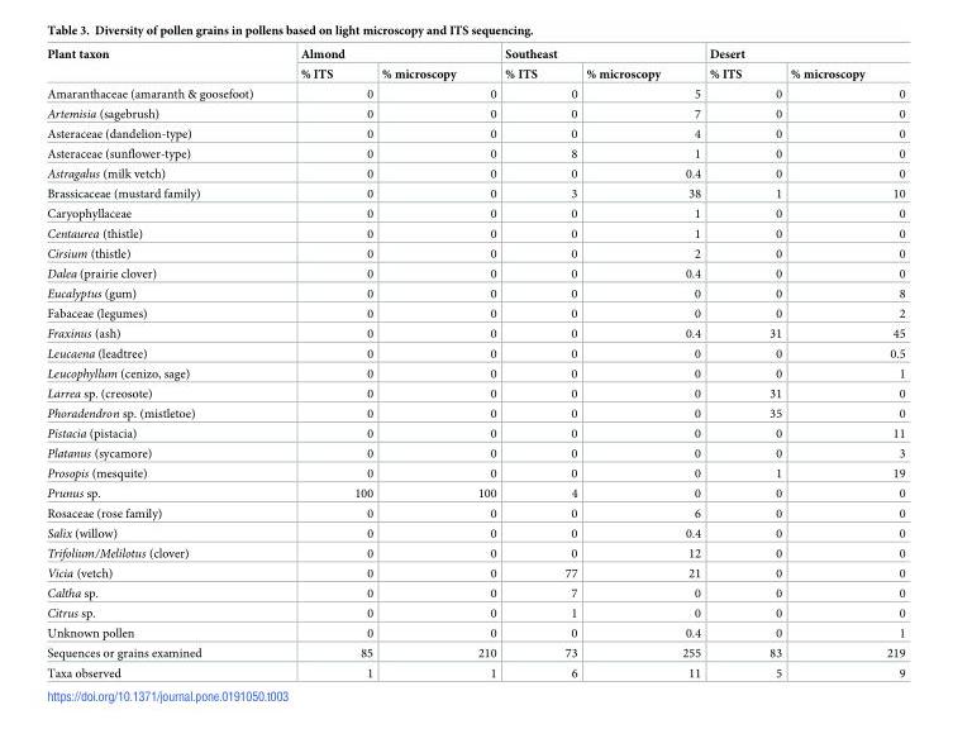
<table><thead><tr><td rowspan="2">Plant taxon</td><td colspan="2">Almond</td><td colspan="2">Southeast</td><td colspan="2">Desert</td></tr><tr><td>% ITS</td><td>% microscopy</td><td>% ITS</td><td>% microscopy</td><td>% ITS</td><td>% microscopy</td></tr></thead><tbody><tr><td>Amaranthaceae (amaranth &amp; goosefoot)</td><td>0</td><td>0</td><td>0</td><td>5</td><td>0</td><td>0</td></tr><tr><td>Artemisia (sagebrush)</td><td>0</td><td>0</td><td>0</td><td>7</td><td>0</td><td>0</td></tr><tr><td>Asteraceae (dandelion-type)</td><td>0</td><td>0</td><td>0</td><td>4</td><td>0</td><td>0</td></tr><tr><td>Asteraceae (sunflower-type)</td><td>0</td><td>0</td><td>8</td><td>1</td><td>0</td><td>0</td></tr><tr><td>Astragalus (milk vetch)</td><td>0</td><td>0</td><td>0</td><td>0.4</td><td>0</td><td>0</td></tr><tr><td>Brassicaceae (mustard family)</td><td>0</td><td>0</td><td>3</td><td>38</td><td>1</td><td>10</td></tr><tr><td>Caryophyllaceae</td><td>0</td><td>0</td><td>0</td><td>1</td><td>0</td><td>0</td></tr><tr><td>Centaurea (thistle)</td><td>0</td><td>0</td><td>0</td><td>1</td><td>0</td><td>0</td></tr><tr><td>Cirsium (thistle)</td><td>0</td><td>0</td><td>0</td><td>2</td><td>0</td><td>0</td></tr><tr><td>Dalea (prairie clover)</td><td>0</td><td>0</td><td>0</td><td>0.4</td><td>0</td><td>0</td></tr><tr><td>Eucalyptus (gum)</td><td>0</td><td>0</td><td>0</td><td>0</td><td>0</td><td>8</td></tr><tr><td>Fabaceae (legumes)</td><td>0</td><td>0</td><td>0</td><td>0</td><td>0</td><td>2</td></tr><tr><td>Fraxinus (ash)</td><td>0</td><td>0</td><td>0</td><td>0.4</td><td>31</td><td>45</td></tr><tr><td>Leucaena (leadtree)</td><td>0</td><td>0</td><td>0</td><td>0</td><td>0</td><td>0.5</td></tr><tr><td>Leucophyllum (cenizo, sage)</td><td>0</td><td>0</td><td>0</td><td>0</td><td>0</td><td>1</td></tr><tr><td>Larrea sp. (creosote)</td><td>0</td><td>0</td><td>0</td><td>0</td><td>31</td><td>0</td></tr><tr><td>Phoradendron sp. (mistletoe)</td><td>0</td><td>0</td><td>0</td><td>0</td><td>35</td><td>0</td></tr><tr><td>Pistacia (pistacia)</td><td>0</td><td>0</td><td>0</td><td>0</td><td>0</td><td>11</td></tr><tr><td>Platanus (sycamore)</td><td>0</td><td>0</td><td>0</td><td>0</td><td>0</td><td>3</td></tr><tr><td>Prosopis (mesquite)</td><td>0</td><td>0</td><td>0</td><td>0</td><td>1</td><td>19</td></tr><tr><td>Prunus sp.</td><td>100</td><td>100</td><td>4</td><td>0</td><td>0</td><td>0</td></tr><tr><td>Rosaceae (rose family)</td><td>0</td><td>0</td><td>0</td><td>6</td><td>0</td><td>0</td></tr><tr><td>Salix (willow)</td><td>0</td><td>0</td><td>0</td><td>0.4</td><td>0</td><td>0</td></tr><tr><td>Trifolium/Melilotus (clover)</td><td>0</td><td>0</td><td>0</td><td>12</td><td>0</td><td>0</td></tr><tr><td>Vicia (vetch)</td><td>0</td><td>0</td><td>77</td><td>21</td><td>0</td><td>0</td></tr><tr><td>Caltha sp.</td><td>0</td><td>0</td><td>7</td><td>0</td><td>0</td><td>0</td></tr><tr><td>Citrus sp.</td><td>0</td><td>0</td><td>1</td><td>0</td><td>0</td><td>0</td></tr><tr><td>Unknown pollen</td><td>0</td><td>0</td><td>0</td><td>0.4</td><td>0</td><td>1</td></tr><tr><td>Sequences or grains examined</td><td>85</td><td>210</td><td>73</td><td>255</td><td>83</td><td>219</td></tr><tr><td>Taxa observed</td><td>1</td><td>1</td><td>6</td><td>11</td><td>5</td><td>9</td></tr></tbody></table>